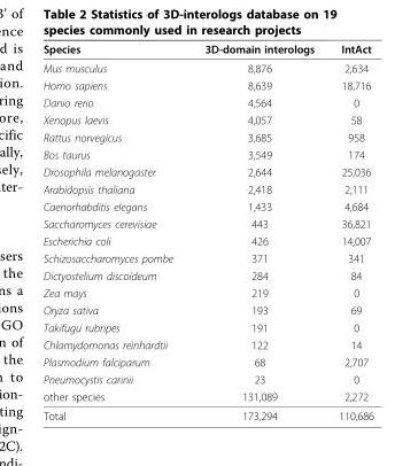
<table><thead><tr><td>Species</td><td>3D-domain interologs</td><td>IntAct</td></tr></thead><tbody><tr><td>Mus musculus</td><td>8,876</td><td>2,634</td></tr><tr><td>Homo sapiens</td><td>8,639</td><td>18,716</td></tr><tr><td>Danio rerio</td><td>4,564</td><td>0</td></tr><tr><td>Xenopus laevis</td><td>4,057</td><td>58</td></tr><tr><td>Rattus norvegicus</td><td>3,685</td><td>958</td></tr><tr><td>Bos taurus</td><td>3,549</td><td>174</td></tr><tr><td>Drosophila melanogaster</td><td>2,644</td><td>25,036</td></tr><tr><td>Arabidopsis thaliana</td><td>2,418</td><td>2,111</td></tr><tr><td>Caenorhabditis elegans</td><td>1,433</td><td>4,684</td></tr><tr><td>Saccharomyces cerevisiae</td><td>443</td><td>36,821</td></tr><tr><td>Escherichia coli</td><td>426</td><td>14,007</td></tr><tr><td>Schizosaccharomyces pombe</td><td>371</td><td>341</td></tr><tr><td>Dictyostelium discoideum</td><td>284</td><td>84</td></tr><tr><td>Zea mays</td><td>219</td><td>0</td></tr><tr><td>Oryza sativa</td><td>193</td><td>69</td></tr><tr><td>Takifugu rubripes</td><td>191</td><td>0</td></tr><tr><td>Chlamydomonas reinhardtii</td><td>122</td><td>14</td></tr><tr><td>Plasmodium falciparum</td><td>68</td><td>2,707</td></tr><tr><td>Pneumocystis carinii</td><td>23</td><td>0</td></tr><tr><td>other species</td><td>131,089</td><td>2,272</td></tr><tr><td>Total</td><td>173,294</td><td>110,686</td></tr></tbody></table>